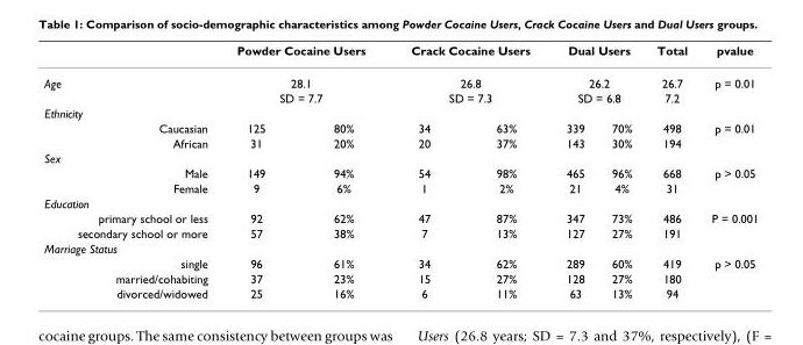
<table><thead><tr><td rowspan="4">Age Ethnicity</td><td rowspan="3" colspan="2">Powder Cocaine Users 28.1 SD = 7.7</td><td rowspan="3" colspan="2">Crack Cocaine Users 26.8 SD = 7.3</td><td rowspan="3" colspan="2">Dual Users 26.2 SD = 6.8</td><td rowspan="4">Total 26.7 7.2</td><td rowspan="4">pvalue p = 0.01</td></tr><tr></tr><tr></tr><tr><td></td><td></td><td></td><td></td><td></td><td></td></tr></thead><tbody><tr><td>Caucasian</td><td>125</td><td>80%</td><td>34</td><td>63%</td><td>339</td><td>70%</td><td>498</td><td>p = 0.01</td></tr><tr><td>African</td><td>31</td><td>20%</td><td>20</td><td>37%</td><td>143</td><td>30%</td><td>194</td><td></td></tr><tr><td colspan="9">Sex</td></tr><tr><td>Male</td><td>149</td><td>94%</td><td>54</td><td>98%</td><td>465</td><td>96%</td><td>668</td><td>p &gt; 0.05</td></tr><tr><td>Female</td><td>9</td><td>6%</td><td>1</td><td>2%</td><td>21</td><td>4%</td><td>31</td><td></td></tr><tr><td colspan="9">Education</td></tr><tr><td>primary school or less</td><td>92</td><td>62%</td><td>47</td><td>87%</td><td>347</td><td>73%</td><td>486</td><td>P = 0.001</td></tr><tr><td>secondary school or more</td><td>57</td><td>38%</td><td>7</td><td>13%</td><td>127</td><td>27%</td><td>191</td><td></td></tr><tr><td colspan="9">Marriage Status</td></tr><tr><td>single</td><td>96</td><td>61%</td><td>34</td><td>62%</td><td>289</td><td>60%</td><td>419</td><td>p &gt; 0.05</td></tr><tr><td>married/cohabiting</td><td>37</td><td>23%</td><td>15</td><td>27%</td><td>128</td><td>27%</td><td>180</td><td></td></tr><tr><td>divorced/widowed</td><td>25</td><td>16%</td><td>6</td><td>11%</td><td>63</td><td>13%</td><td>94</td><td></td></tr></tbody></table>